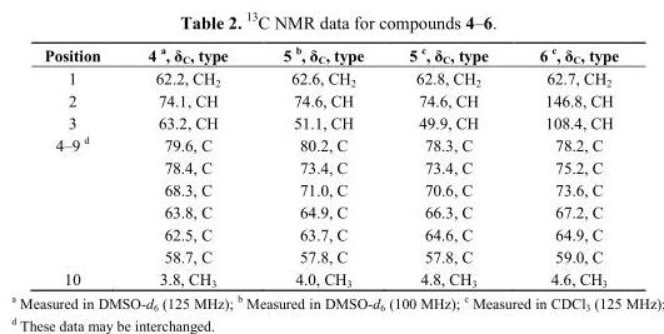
<table><thead><tr><td>Position</td><td>4 <sup>a</sup>, δ<sub>C</sub>, type</td><td>5 <sup>b</sup>, δ<sub>C</sub>, type</td><td>5 <sup>c</sup>, δ<sub>C</sub>, type</td><td>6 <sup>c</sup>, δ<sub>C</sub>, type</td></tr></thead><tbody><tr><td>1</td><td>62.2, CH<sub>2</sub></td><td>62.6, CH<sub>2</sub></td><td>62.8, CH<sub>2</sub></td><td>62.7, CH<sub>2</sub></td></tr><tr><td>2</td><td>74.1, CH</td><td>74.6, CH</td><td>74.6, CH</td><td>146.8, CH</td></tr><tr><td>3</td><td>63.2, CH</td><td>51.1, CH</td><td>49.9, CH</td><td>108.4, CH</td></tr><tr><td rowspan="6">4–9 <sup>d</sup></td><td>79.6, C</td><td>80.2, C</td><td>78.3, C</td><td>78.2, C</td></tr><tr><td>78.4, C</td><td>73.4, C</td><td>73.4, C</td><td>75.2, C</td></tr><tr><td>68.3, C</td><td>71.0, C</td><td>70.6, C</td><td>73.6, C</td></tr><tr><td>63.8, C</td><td>64.9, C</td><td>66.3, C</td><td>67.2, C</td></tr><tr><td>62.5, C</td><td>63.7, C</td><td>64.6, C</td><td>64.9, C</td></tr><tr><td>58.7, C</td><td>57.8, C</td><td>57.8, C</td><td>59.0, C</td></tr><tr><td>10</td><td>3.8, CH<sub>3</sub></td><td>4.0, CH<sub>3</sub></td><td>4.8, CH<sub>3</sub></td><td>4.6, CH<sub>3</sub></td></tr></tbody></table>